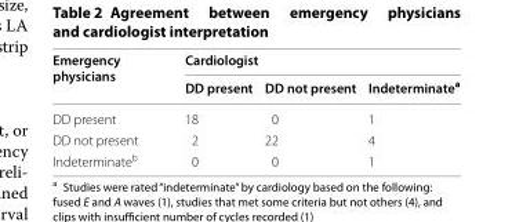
<table><thead><tr><td rowspan="2">Emergency physicians</td><td colspan="3">Cardiologist</td></tr><tr><td>DD present</td><td>DD not present</td><td>Indeterminate<sup>a</sup></td></tr></thead><tbody><tr><td>DD present</td><td>18</td><td>0</td><td>1</td></tr><tr><td>DD not present</td><td>2</td><td>22</td><td>4</td></tr><tr><td>Indeterminate<sup>b</sup></td><td>0</td><td>0</td><td>1</td></tr></tbody></table>